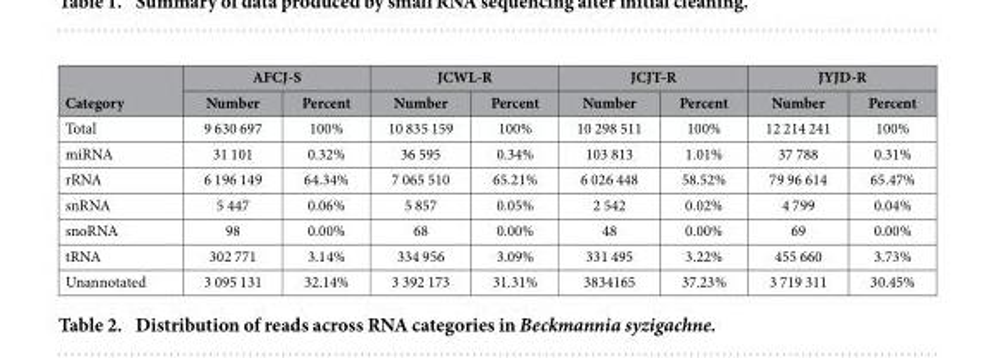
<table><thead><tr><td rowspan="2">Category</td><td colspan="2">AFCJ-S</td><td colspan="2">JCWL-R</td><td colspan="2">JCJT-R</td><td colspan="2">JYJD-R</td></tr><tr><td>Number</td><td>Percent</td><td>Number</td><td>Percent</td><td>Number</td><td>Percent</td><td>Number</td><td>Percent</td></tr></thead><tbody><tr><td>Total</td><td>9 630 697</td><td>100%</td><td>10 835 159</td><td>100%</td><td>10 298 511</td><td>100%</td><td>12 214 241</td><td>100%</td></tr><tr><td>miRNA</td><td>31 101</td><td>0.32%</td><td>36 595</td><td>0.34%</td><td>103 813</td><td>1.01%</td><td>37 788</td><td>0.31%</td></tr><tr><td>rRNA</td><td>6 196 149</td><td>64.34%</td><td>7 065 510</td><td>65.21%</td><td>6 026 448</td><td>58.52%</td><td>79 96 614</td><td>65.47%</td></tr><tr><td>snRNA</td><td>5 447</td><td>0.06%</td><td>5 857</td><td>0.05%</td><td>2 542</td><td>0.02%</td><td>4 799</td><td>0.04%</td></tr><tr><td>snoRNA</td><td>98</td><td>0.00%</td><td>68</td><td>0.00%</td><td>48</td><td>0.00%</td><td>69</td><td>0.00%</td></tr><tr><td>tRNA</td><td>302 771</td><td>3.14%</td><td>334 956</td><td>3.09%</td><td>331 495</td><td>3.22%</td><td>455 660</td><td>3.73%</td></tr><tr><td>Unannotated</td><td>3 095 131</td><td>32.14%</td><td>3 392 173</td><td>31.31%</td><td>3834165</td><td>37.23%</td><td>3 719 311</td><td>30.45%</td></tr></tbody></table>